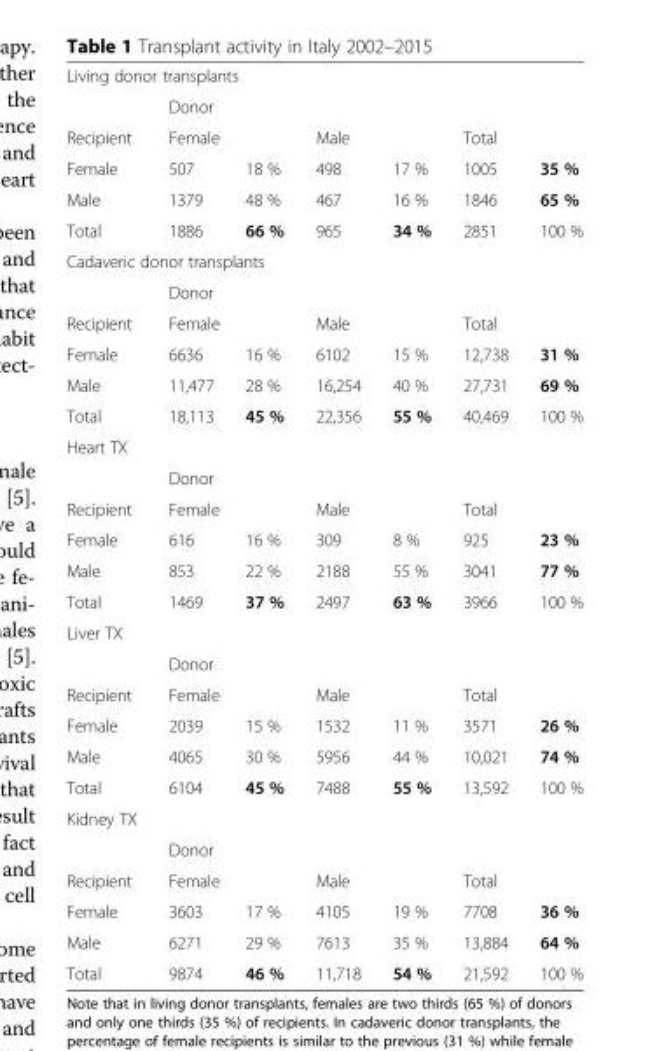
<table><tbody><tr><td colspan="7">Living donor transplants</td></tr><tr><td></td><td colspan="4">Donor</td><td></td><td></td></tr><tr><td>Recipient</td><td colspan="2">Female</td><td colspan="2">Male</td><td colspan="2">Total</td></tr><tr><td>Female</td><td>507</td><td>18 %</td><td>498</td><td>17 %</td><td>1005</td><td>35 %</td></tr><tr><td>Male</td><td>1379</td><td>48 %</td><td>467</td><td>16 %</td><td>1846</td><td>65 %</td></tr><tr><td>Total</td><td>1886</td><td>66 %</td><td>965</td><td>34 %</td><td>2851</td><td>100 %</td></tr><tr><td colspan="7">Cadaveric donor transplants</td></tr><tr><td></td><td colspan="4">Donor</td><td></td><td></td></tr><tr><td>Recipient</td><td colspan="2">Female</td><td colspan="2">Male</td><td colspan="2">Total</td></tr><tr><td>Female</td><td>6636</td><td>16 %</td><td>6102</td><td>15 %</td><td>12,738</td><td>31 %</td></tr><tr><td>Male</td><td>11,477</td><td>28 %</td><td>16,254</td><td>40 %</td><td>27,731</td><td>69 %</td></tr><tr><td>Total</td><td>18,113</td><td>45 %</td><td>22,356</td><td>55 %</td><td>40,469</td><td>100 %</td></tr><tr><td colspan="7">Heart TX</td></tr><tr><td></td><td colspan="4">Donor</td><td></td><td></td></tr><tr><td>Recipient</td><td colspan="2">Female</td><td colspan="2">Male</td><td colspan="2">Total</td></tr><tr><td>Female</td><td>616</td><td>16 %</td><td>309</td><td>8 %</td><td>925</td><td>23 %</td></tr><tr><td>Male</td><td>853</td><td>22 %</td><td>2188</td><td>55 %</td><td>3041</td><td>77 %</td></tr><tr><td>Total</td><td>1469</td><td>37 %</td><td>2497</td><td>63 %</td><td>3966</td><td>100 %</td></tr><tr><td colspan="7">Liver TX</td></tr><tr><td></td><td colspan="4">Donor</td><td></td><td></td></tr><tr><td>Recipient</td><td colspan="2">Female</td><td colspan="2">Male</td><td colspan="2">Total</td></tr><tr><td>Female</td><td>2039</td><td>15 %</td><td>1532</td><td>11 %</td><td>3571</td><td>26 %</td></tr><tr><td>Male</td><td>4065</td><td>30 %</td><td>5956</td><td>44 %</td><td>10,021</td><td>74 %</td></tr><tr><td>Total</td><td>6104</td><td>45 %</td><td>7488</td><td>55 %</td><td>13,592</td><td>100 %</td></tr><tr><td colspan="7">Kidney TX</td></tr><tr><td></td><td colspan="4">Donor</td><td></td><td></td></tr><tr><td>Recipient</td><td colspan="2">Female</td><td colspan="2">Male</td><td colspan="2">Total</td></tr><tr><td>Female</td><td>3603</td><td>17 %</td><td>4105</td><td>19 %</td><td>7708</td><td>36 %</td></tr><tr><td>Male</td><td>6271</td><td>29 %</td><td>7613</td><td>35 %</td><td>13,884</td><td>64 %</td></tr><tr><td>Total</td><td>9874</td><td>46 %</td><td>11,718</td><td>54 %</td><td>21,592</td><td>100 %</td></tr></tbody></table>